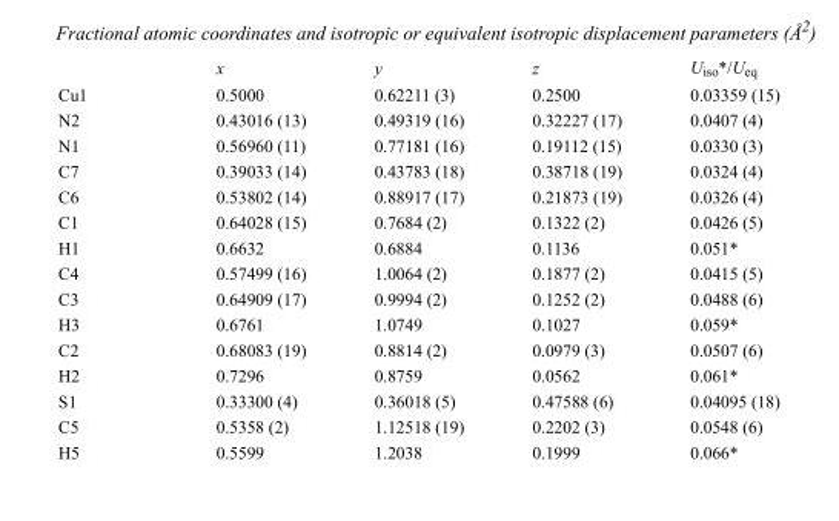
<table><thead><tr><td></td><td>x</td><td>y</td><td>z</td><td>U<sub>iso</sub>*/U<sub>eq</sub></td></tr></thead><tbody><tr><td>Cu1</td><td>0.5000</td><td>0.62211 (3)</td><td>0.2500</td><td>0.03359 (15)</td></tr><tr><td>N2</td><td>0.43016 (13)</td><td>0.49319 (16)</td><td>0.32227 (17)</td><td>0.0407 (4)</td></tr><tr><td>N1</td><td>0.56960 (11)</td><td>0.77181 (16)</td><td>0.19112 (15)</td><td>0.0330 (3)</td></tr><tr><td>C7</td><td>0.39033 (14)</td><td>0.43783 (18)</td><td>0.38718 (19)</td><td>0.0324 (4)</td></tr><tr><td>C6</td><td>0.53802 (14)</td><td>0.88917 (17)</td><td>0.21873 (19)</td><td>0.0326 (4)</td></tr><tr><td>C1</td><td>0.64028 (15)</td><td>0.7684 (2)</td><td>0.1322 (2)</td><td>0.0426 (5)</td></tr><tr><td>H1</td><td>0.6632</td><td>0.6884</td><td>0.1136</td><td>0.051*</td></tr><tr><td>C4</td><td>0.57499 (16)</td><td>1.0064 (2)</td><td>0.1877 (2)</td><td>0.0415 (5)</td></tr><tr><td>C3</td><td>0.64909 (17)</td><td>0.9994 (2)</td><td>0.1252 (2)</td><td>0.0488 (6)</td></tr><tr><td>H3</td><td>0.6761</td><td>1.0749</td><td>0.1027</td><td>0.059*</td></tr><tr><td>C2</td><td>0.68083 (19)</td><td>0.8814 (2)</td><td>0.0979 (3)</td><td>0.0507 (6)</td></tr><tr><td>H2</td><td>0.7296</td><td>0.8759</td><td>0.0562</td><td>0.061*</td></tr><tr><td>S1</td><td>0.33300 (4)</td><td>0.36018 (5)</td><td>0.47588 (6)</td><td>0.04095 (18)</td></tr><tr><td>C5</td><td>0.5358 (2)</td><td>1.12518 (19)</td><td>0.2202 (3)</td><td>0.0548 (6)</td></tr><tr><td>H5</td><td>0.5599</td><td>1.2038</td><td>0.1999</td><td>0.066*</td></tr></tbody></table>